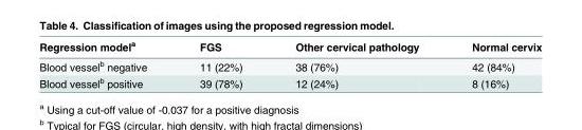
<table><thead><tr><td>Regression model<sup>a</sup></td><td>FGS</td><td>Other cervical pathology</td><td>Normal cervix</td></tr></thead><tbody><tr><td>Blood vessel<sup>b</sup> negative</td><td>11 (22%)</td><td>38 (76%)</td><td>42 (84%)</td></tr><tr><td>Blood vessel<sup>b</sup> positive</td><td>39 (78%)</td><td>12 (24%)</td><td>8 (16%)</td></tr></tbody></table>